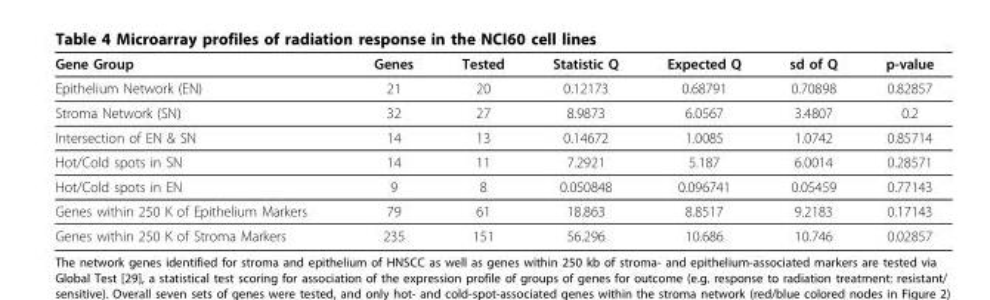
<table><thead><tr><td>Gene Group</td><td>Genes</td><td>Tested</td><td>Statistic Q</td><td>Expected Q</td><td>sd of Q</td><td>p-value</td></tr></thead><tbody><tr><td>Epithelium Network (EN)</td><td>21</td><td>20</td><td>0.12173</td><td>0.68791</td><td>0.70898</td><td>0.82857</td></tr><tr><td>Stroma Network (SN)</td><td>32</td><td>27</td><td>8.9873</td><td>6.0567</td><td>3.4807</td><td>0.2</td></tr><tr><td>Intersection of EN &amp; SN</td><td>14</td><td>13</td><td>0.14672</td><td>1.0085</td><td>1.0742</td><td>0.85714</td></tr><tr><td>Hot/Cold spots in SN</td><td>14</td><td>11</td><td>7.2921</td><td>5.187</td><td>6.0014</td><td>0.28571</td></tr><tr><td>Hot/Cold spots in EN</td><td>9</td><td>8</td><td>0.050848</td><td>0.096741</td><td>0.05459</td><td>0.77143</td></tr><tr><td>Genes within 250 K of Epithelium Markers</td><td>79</td><td>61</td><td>18.863</td><td>8.8517</td><td>9.2183</td><td>0.17143</td></tr><tr><td>Genes within 250 K of Stroma Markers</td><td>235</td><td>151</td><td>56.296</td><td>10.686</td><td>10.746</td><td>0.02857</td></tr></tbody></table>